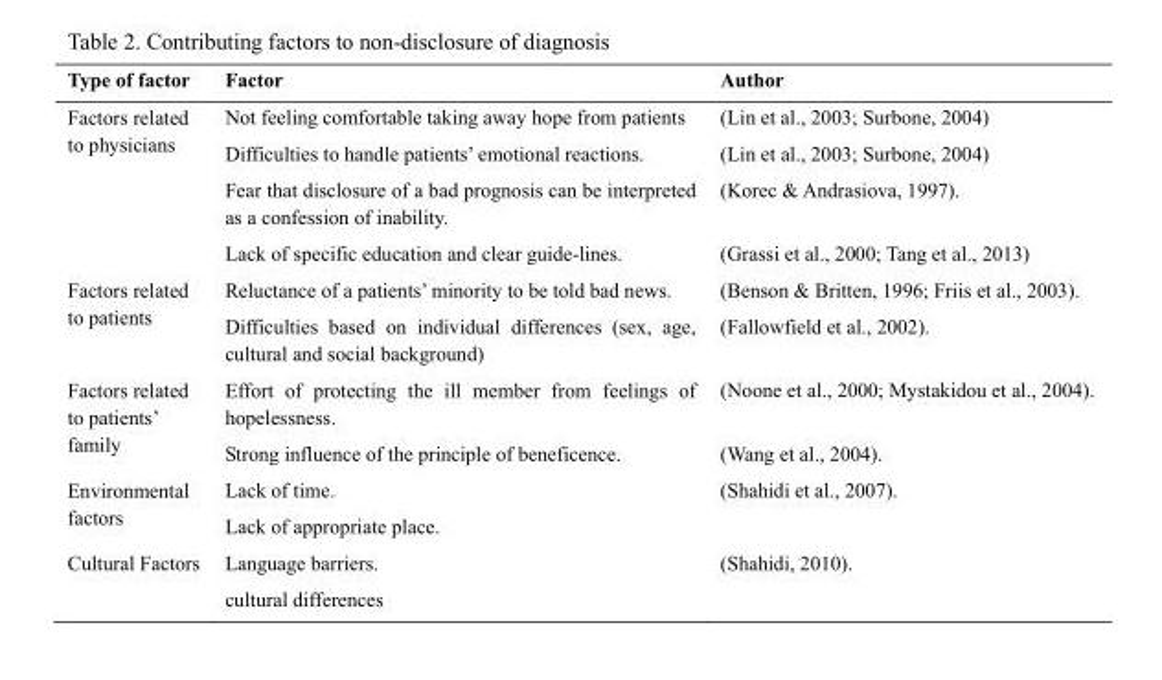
<table><thead><tr><td>Type of factor</td><td>Factor</td><td>Author</td></tr></thead><tbody><tr><td rowspan="4">Factors related to physicians</td><td>Not feeling comfortable taking away hope from patients</td><td>(Lin et al., 2003; Surbone, 2004)</td></tr><tr><td>Difficulties to handle patients’ emotional reactions.</td><td>(Lin et al., 2003; Surbone, 2004)</td></tr><tr><td>Fear that disclosure of a bad prognosis can be interpreted as a confession of inability.</td><td>(Korec &amp; Andrasiova, 1997).</td></tr><tr><td>Lack of specific education and clear guide-lines.</td><td>(Grassi et al., 2000; Tang et al., 2013)</td></tr><tr><td rowspan="2">Factors related to patients</td><td>Reluctance of a patients’ minority to be told bad news.</td><td>(Benson &amp; Britten, 1996; Friis et al., 2003).</td></tr><tr><td>Difficulties based on individual differences (sex, age, cultural and social background)</td><td>(Fallowfield et al., 2002).</td></tr><tr><td rowspan="2">Factors related to patients’ family</td><td>Effort of protecting the ill member from feelings of hopelessness.</td><td>(Noone et al., 2000; Mystakidou et al., 2004).</td></tr><tr><td>Strong influence of the principle of beneficence.</td><td>(Wang et al., 2004).</td></tr><tr><td rowspan="2">Environmental factors</td><td>Lack of time.</td><td rowspan="2">(Shahidi et al., 2007).</td></tr><tr><td>Lack of appropriate place.</td></tr><tr><td rowspan="2">Cultural Factors</td><td>Language barriers.</td><td rowspan="2">(Shahidi, 2010).</td></tr><tr><td>cultural differences</td></tr></tbody></table>